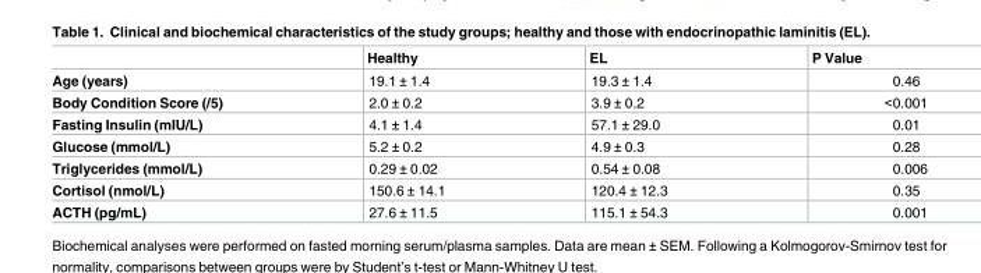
<table><thead><tr><td></td><td>Healthy</td><td>EL</td><td>P Value</td></tr></thead><tbody><tr><td>Age (years)</td><td>19.1 ± 1.4</td><td>19.3 ± 1.4</td><td>0.46</td></tr><tr><td>Body Condition Score (/5)</td><td>2.0 ± 0.2</td><td>3.9 ± 0.2</td><td>&lt;0.001</td></tr><tr><td>Fasting Insulin (mIU/L)</td><td>4.1 ± 1.4</td><td>57.1 ± 29.0</td><td>0.01</td></tr><tr><td>Glucose (mmol/L)</td><td>5.2 ± 0.2</td><td>4.9 ± 0.3</td><td>0.28</td></tr><tr><td>Triglycerides (mmol/L)</td><td>0.29 ± 0.02</td><td>0.54 ± 0.08</td><td>0.006</td></tr><tr><td>Cortisol (nmol/L)</td><td>150.6 ± 14.1</td><td>120.4 ± 12.3</td><td>0.35</td></tr><tr><td>ACTH (pg/mL)</td><td>27.6 ± 11.5</td><td>115.1 ± 54.3</td><td>0.001</td></tr></tbody></table>